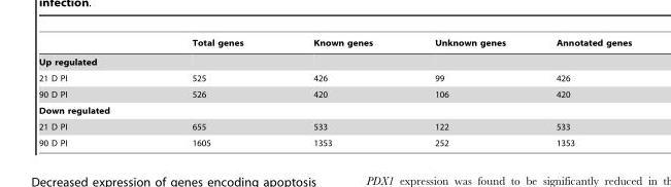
<table><thead><tr><td></td><td>Total genes</td><td>Known genes</td><td>Unknown genes</td><td>Annotated genes</td></tr></thead><tbody><tr><td colspan="5">Up regulated</td></tr><tr><td>21 D PI</td><td>525</td><td>426</td><td>99</td><td>426</td></tr><tr><td>90 D PI</td><td>526</td><td>420</td><td>106</td><td>420</td></tr><tr><td colspan="5">Down regulated</td></tr><tr><td>21 D PI</td><td>655</td><td>533</td><td>122</td><td>533</td></tr><tr><td>90 D PI</td><td>1605</td><td>1353</td><td>252</td><td>1353</td></tr></tbody></table>